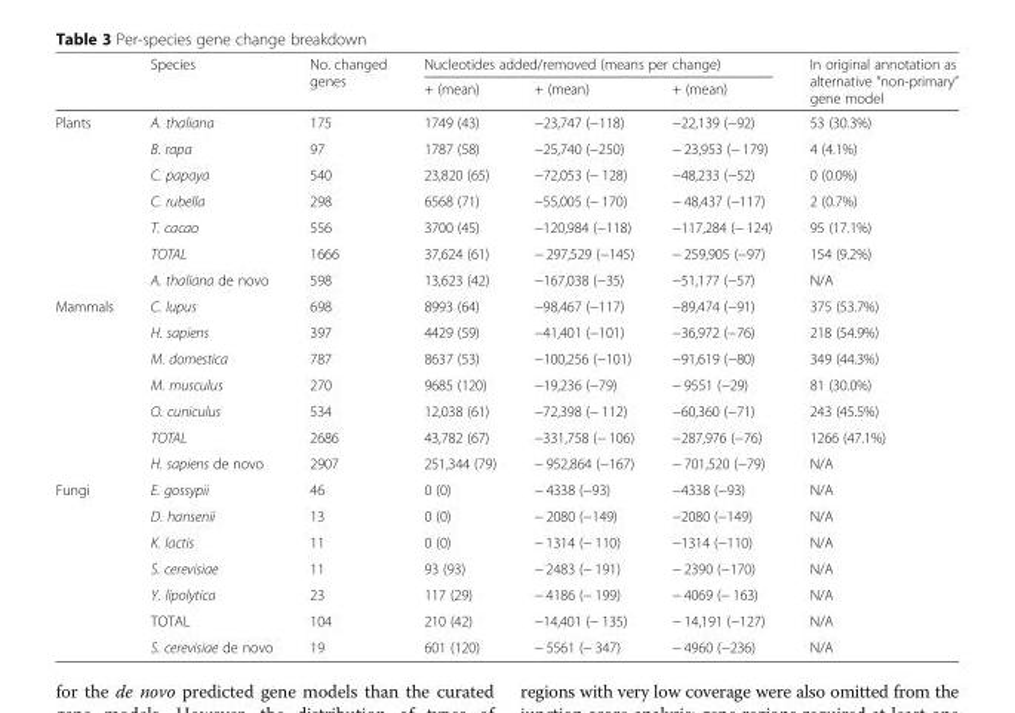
<table><thead><tr><td rowspan="2"></td><td rowspan="2">Species</td><td rowspan="2">No. changed genes</td><td colspan="3">Nucleotides added/removed (means per change)</td><td rowspan="2">In original annotation as alternative “non-primary” gene model</td></tr><tr><td>+ (mean)</td><td>+ (mean)</td><td>+ (mean)</td></tr></thead><tbody><tr><td rowspan="7">Plants</td><td>A. thaliana</td><td>175</td><td>1749 (43)</td><td>−23,747 (−118)</td><td>−22,139 (−92)</td><td>53 (30.3%)</td></tr><tr><td>B. rapa</td><td>97</td><td>1787 (58)</td><td>−25,740 (−250)</td><td>− 23,953 (− 179)</td><td>4 (4.1%)</td></tr><tr><td>C. papaya</td><td>540</td><td>23,820 (65)</td><td>−72,053 (− 128)</td><td>−48,233 (−52)</td><td>0 (0.0%)</td></tr><tr><td>C. rubella</td><td>298</td><td>6568 (71)</td><td>−55,005 (− 170)</td><td>− 48,437 (−117)</td><td>2 (0.7%)</td></tr><tr><td>T. cacao</td><td>556</td><td>3700 (45)</td><td>−120,984 (−118)</td><td>−117,284 (− 124)</td><td>95 (17.1%)</td></tr><tr><td>TOTAL</td><td>1666</td><td>37,624 (61)</td><td>− 297,529 (−145)</td><td>− 259,905 (−97)</td><td>154 (9.2%)</td></tr><tr><td>A. thaliana de novo</td><td>598</td><td>13,623 (42)</td><td>−167,038 (−35)</td><td>−51,177 (−57)</td><td>N/A</td></tr><tr><td rowspan="7">Mammals</td><td>C. lupus</td><td>698</td><td>8993 (64)</td><td>−98,467 (−117)</td><td>−89,474 (−91)</td><td>375 (53.7%)</td></tr><tr><td>H. sapiens</td><td>397</td><td>4429 (59)</td><td>−41,401 (−101)</td><td>−36,972 (−76)</td><td>218 (54.9%)</td></tr><tr><td>M. domestica</td><td>787</td><td>8637 (53)</td><td>−100,256 (−101)</td><td>−91,619 (−80)</td><td>349 (44.3%)</td></tr><tr><td>M. musculus</td><td>270</td><td>9685 (120)</td><td>−19,236 (−79)</td><td>− 9551 (−29)</td><td>81 (30.0%)</td></tr><tr><td>O. cuniculus</td><td>534</td><td>12,038 (61)</td><td>−72,398 (− 112)</td><td>−60,360 (−71)</td><td>243 (45.5%)</td></tr><tr><td>TOTAL</td><td>2686</td><td>43,782 (67)</td><td>−331,758 (− 106)</td><td>−287,976 (−76)</td><td>1266 (47.1%)</td></tr><tr><td>H. sapiens de novo</td><td>2907</td><td>251,344 (79)</td><td>− 952,864 (−167)</td><td>− 701,520 (−79)</td><td>N/A</td></tr><tr><td rowspan="7">Fungi</td><td>E. gossypii</td><td>46</td><td>0 (0)</td><td>− 4338 (−93)</td><td>−4338 (−93)</td><td>N/A</td></tr><tr><td>D. hansenii</td><td>13</td><td>0 (0)</td><td>− 2080 (−149)</td><td>−2080 (−149)</td><td>N/A</td></tr><tr><td>K. lactis</td><td>11</td><td>0 (0)</td><td>− 1314 (− 110)</td><td>−1314 (−110)</td><td>N/A</td></tr><tr><td>S. cerevisiae</td><td>11</td><td>93 (93)</td><td>− 2483 (− 191)</td><td>− 2390 (−170)</td><td>N/A</td></tr><tr><td>Y. lipolytica</td><td>23</td><td>117 (29)</td><td>− 4186 (− 199)</td><td>− 4069 (− 163)</td><td>N/A</td></tr><tr><td>TOTAL</td><td>104</td><td>210 (42)</td><td>−14,401 (− 135)</td><td>− 14,191 (−127)</td><td>N/A</td></tr><tr><td>S. cerevisiae de novo</td><td>19</td><td>601 (120)</td><td>− 5561 (− 347)</td><td>− 4960 (−236)</td><td>N/A</td></tr></tbody></table>